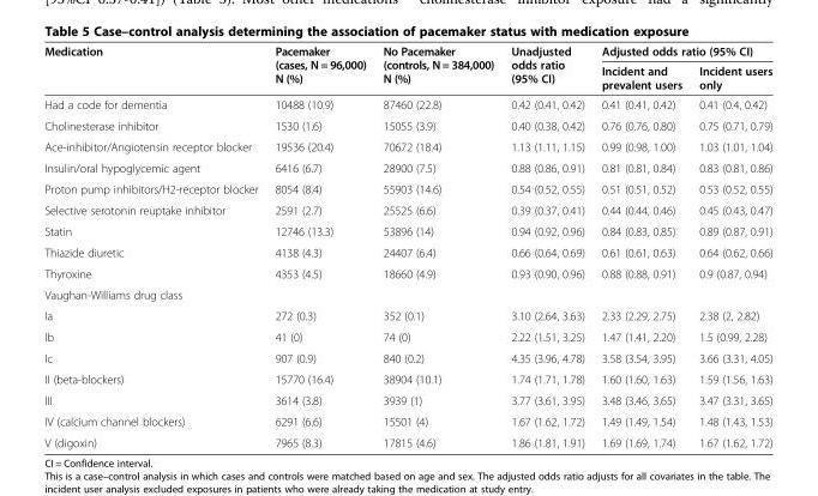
<table><thead><tr><td rowspan="2">Medication</td><td rowspan="2">Pacemaker (cases, N = 96,000) N (%)</td><td rowspan="2">No Pacemaker (controls, N = 384,000) N (%)</td><td rowspan="2">Unadjusted odds ratio (95% CI)</td><td colspan="2">Adjusted odds ratio (95% CI)</td></tr><tr><td>Incident and prevalent users</td><td>Incident users only</td></tr></thead><tbody><tr><td>Had a code for dementia</td><td>10488 (10.9)</td><td>87460 (22.8)</td><td>0.42 (0.41, 0.42)</td><td>0.41 (0.41, 0.42)</td><td>0.41 (0.4, 0.42)</td></tr><tr><td>Cholinesterase inhibitor</td><td>1530 (1.6)</td><td>15055 (3.9)</td><td>0.40 (0.38, 0.42)</td><td>0.76 (0.76, 0.80)</td><td>0.75 (0.71, 0.79)</td></tr><tr><td>Ace-inhibitor/Angiotensin receptor blocker</td><td>19536 (20.4)</td><td>70672 (18.4)</td><td>1.13 (1.11, 1.15)</td><td>0.99 (0.98, 1.00)</td><td>1.03 (1.01, 1.04)</td></tr><tr><td>Insulin/oral hypoglycemic agent</td><td>6416 (6.7)</td><td>28900 (7.5)</td><td>0.88 (0.86, 0.91)</td><td>0.81 (0.81, 0.84)</td><td>0.83 (0.81, 0.86)</td></tr><tr><td>Proton pump inhibitors/H2-receptor blocker</td><td>8054 (8.4)</td><td>55903 (14.6)</td><td>0.54 (0.52, 0.55)</td><td>0.51 (0.51, 0.52)</td><td>0.53 (0.52, 0.55)</td></tr><tr><td>Selective serotonin reuptake inhibitor</td><td>2591 (2.7)</td><td>25525 (6.6)</td><td>0.39 (0.37, 0.41)</td><td>0.44 (0.44, 0.46)</td><td>0.45 (0.43, 0.47)</td></tr><tr><td>Statin</td><td>12746 (13.3)</td><td>53896 (14)</td><td>0.94 (0.92, 0.96)</td><td>0.84 (0.83, 0.85)</td><td>0.89 (0.87, 0.91)</td></tr><tr><td>Thiazide diuretic</td><td>4138 (4.3)</td><td>24407 (6.4)</td><td>0.66 (0.64, 0.69)</td><td>0.61 (0.61, 0.63)</td><td>0.64 (0.62, 0.66)</td></tr><tr><td>Thyroxine</td><td>4353 (4.5)</td><td>18660 (4.9)</td><td>0.93 (0.90, 0.96)</td><td>0.88 (0.88, 0.91)</td><td>0.9 (0.87, 0.94)</td></tr><tr><td colspan="6">Vaughan-Williams drug class</td></tr><tr><td>Ia</td><td>272 (0.3)</td><td>352 (0.1)</td><td>3.10 (2.64, 3.63)</td><td>2.33 (2.29, 2.75)</td><td>2.38 (2, 2.82)</td></tr><tr><td>Ib</td><td>41 (0)</td><td>74 (0)</td><td>2.22 (1.51, 3.25)</td><td>1.47 (1.41, 2.20)</td><td>1.5 (0.99, 2.28)</td></tr><tr><td>Ic</td><td>907 (0.9)</td><td>840 (0.2)</td><td>4.35 (3.96, 4.78)</td><td>3.58 (3.54, 3.95)</td><td>3.66 (3.31, 4.05)</td></tr><tr><td>II (beta-blockers)</td><td>15770 (16.4)</td><td>38904 (10.1)</td><td>1.74 (1.71, 1.78)</td><td>1.60 (1.60, 1.63)</td><td>1.59 (1.56, 1.63)</td></tr><tr><td>III</td><td>3614 (3.8)</td><td>3939 (1)</td><td>3.77 (3.61, 3.95)</td><td>3.48 (3.46, 3.65)</td><td>3.47 (3.31, 3.65)</td></tr><tr><td>IV (calcium channel blockers)</td><td>6291 (6.6)</td><td>15501 (4)</td><td>1.67 (1.62, 1.72)</td><td>1.49 (1.49, 1.54)</td><td>1.48 (1.43, 1.53)</td></tr><tr><td>V (digoxin)</td><td>7965 (8.3)</td><td>17815 (4.6)</td><td>1.86 (1.81, 1.91)</td><td>1.69 (1.69, 1.74)</td><td>1.67 (1.62, 1.72)</td></tr></tbody></table>